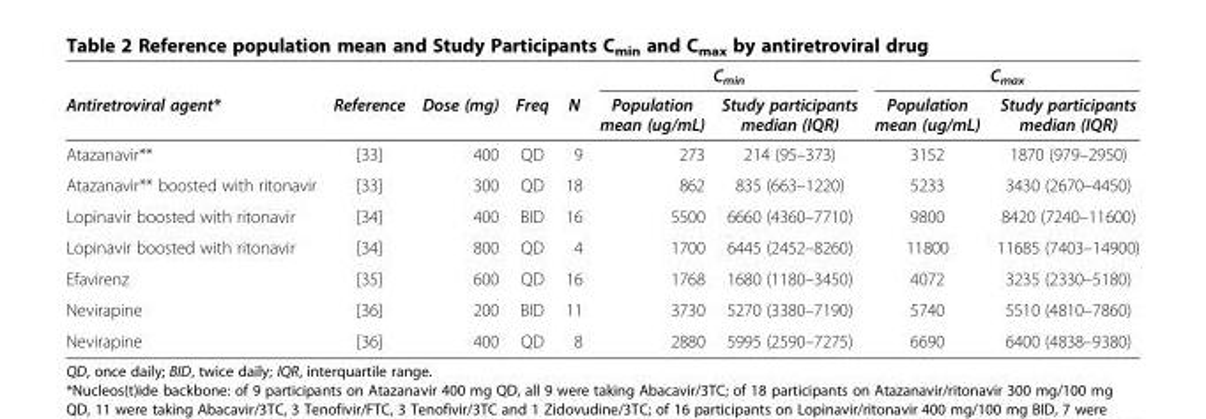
<table><thead><tr><td rowspan="2">Antiretroviral agent*</td><td rowspan="2">Reference</td><td rowspan="2">Dose (mg)</td><td rowspan="2">Freq</td><td rowspan="2">N</td><td colspan="2">C<sub>min</sub></td><td colspan="2">C<sub>max</sub></td></tr><tr><td>Population mean (ug/mL)</td><td>Study participants median (IQR)</td><td>Population mean (ug/mL)</td><td>Study participants median (IQR)</td></tr></thead><tbody><tr><td>Atazanavir**</td><td>[33]</td><td>400</td><td>QD</td><td>9</td><td>273</td><td>214 (95–373)</td><td>3152</td><td>1870 (979–2950)</td></tr><tr><td>Atazanavir** boosted with ritonavir</td><td>[33]</td><td>300</td><td>QD</td><td>18</td><td>862</td><td>835 (663–1220)</td><td>5233</td><td>3430 (2670–4450)</td></tr><tr><td>Lopinavir boosted with ritonavir</td><td>[34]</td><td>400</td><td>BID</td><td>16</td><td>5500</td><td>6660 (4360–7710)</td><td>9800</td><td>8420 (7240–11600)</td></tr><tr><td>Lopinavir boosted with ritonavir</td><td>[34]</td><td>800</td><td>QD</td><td>4</td><td>1700</td><td>6445 (2452–8260)</td><td>11800</td><td>11685 (7403–14900)</td></tr><tr><td>Efavirenz</td><td>[35]</td><td>600</td><td>QD</td><td>16</td><td>1768</td><td>1680 (1180–3450)</td><td>4072</td><td>3235 (2330–5180)</td></tr><tr><td>Nevirapine</td><td>[36]</td><td>200</td><td>BID</td><td>11</td><td>3730</td><td>5270 (3380–7190)</td><td>5740</td><td>5510 (4810–7860)</td></tr><tr><td>Nevirapine</td><td>[36]</td><td>400</td><td>QD</td><td>8</td><td>2880</td><td>5995 (2590–7275)</td><td>6690</td><td>6400 (4838–9380)</td></tr></tbody></table>